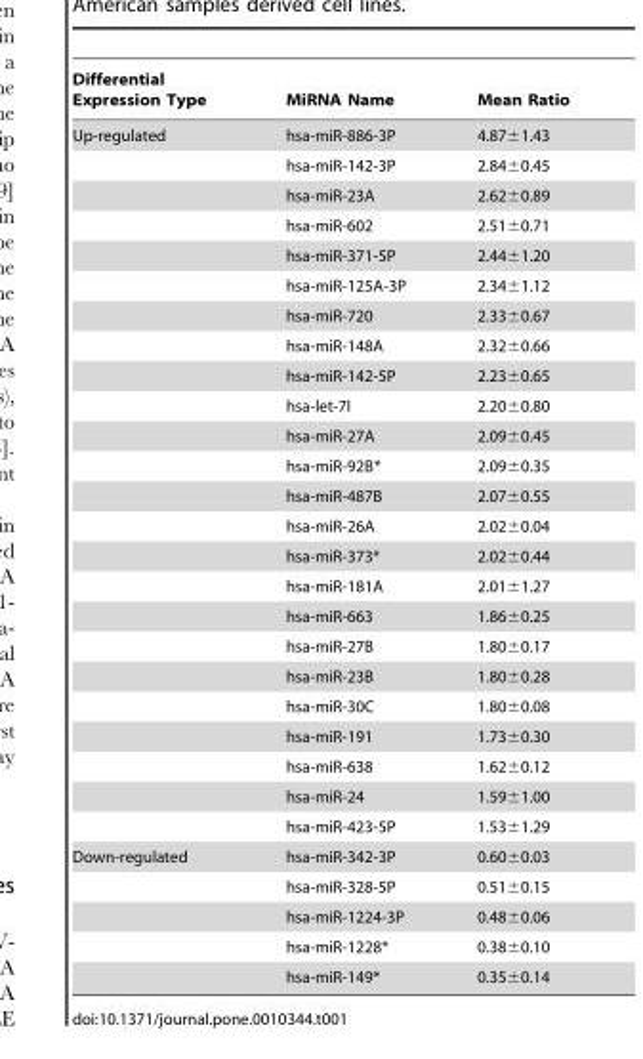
<table><thead><tr><td>Differential Expression Type</td><td>MiRNA Name</td><td>Mean Ratio</td></tr></thead><tbody><tr><td rowspan="24">Up-regulated</td><td>hsa-miR-886-3P</td><td>4.87±1.43</td></tr><tr><td>hsa-miR-142-3P</td><td>2.84±0.45</td></tr><tr><td>hsa-miR-23A</td><td>2.62±0.89</td></tr><tr><td>hsa-miR-602</td><td>2.51±0.71</td></tr><tr><td>hsa-miR-371-5P</td><td>2.44±1.20</td></tr><tr><td>hsa-miR-125A-3P</td><td>2.34±1.12</td></tr><tr><td>hsa-miR-720</td><td>2.33±0.67</td></tr><tr><td>hsa-miR-148A</td><td>2.32±0.66</td></tr><tr><td>hsa-miR-142-5P</td><td>2.23±0.65</td></tr><tr><td>hsa-let-7I</td><td>2.20±0.80</td></tr><tr><td>hsa-miR-27A</td><td>2.09±0.45</td></tr><tr><td>hsa-miR-92B*</td><td>2.09±0.35</td></tr><tr><td>hsa-miR-487B</td><td>2.07±0.55</td></tr><tr><td>hsa-miR-26A</td><td>2.02±0.04</td></tr><tr><td>hsa-miR-373*</td><td>2.02±0.44</td></tr><tr><td>hsa-miR-181A</td><td>2.01±1.27</td></tr><tr><td>hsa-miR-663</td><td>1.86±0.25</td></tr><tr><td>hsa-miR-27B</td><td>1.80±0.17</td></tr><tr><td>hsa-miR-23B</td><td>1.80±0.28</td></tr><tr><td>hsa-miR-30C</td><td>1.80±0.08</td></tr><tr><td>hsa-miR-191</td><td>1.73±0.30</td></tr><tr><td>hsa-miR-638</td><td>1.62±0.12</td></tr><tr><td>hsa-miR-24</td><td>1.59±1.00</td></tr><tr><td>hsa-miR-423-5P</td><td>1.53±1.29</td></tr><tr><td rowspan="5">Down-regulated</td><td>hsa-miR-342-3P</td><td>0.60±0.03</td></tr><tr><td>hsa-miR-328-5P</td><td>0.51±0.15</td></tr><tr><td>hsa-miR-1224-3P</td><td>0.48±0.06</td></tr><tr><td>hsa-miR-1228*</td><td>0.38±0.10</td></tr><tr><td>hsa-miR-149*</td><td>0.35±0.14</td></tr></tbody></table>